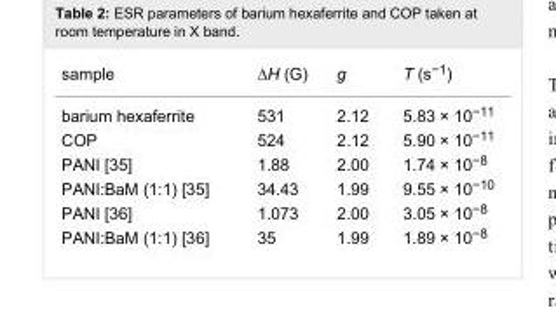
<table><tbody><tr><td>sample</td><td>∆H (G)</td><td>g</td><td>T (s<sup>−1</sup>)</td></tr><tr><td>barium hexaferrite</td><td>531</td><td>2.12</td><td>5.83 × 10<sup>−11</sup></td></tr><tr><td>COP</td><td>524</td><td>2.12</td><td>5.90 × 10<sup>−11</sup></td></tr><tr><td>PANI [35]</td><td>1.88</td><td>2.00</td><td>1.74 × 10<sup>−8</sup></td></tr><tr><td>PANI:BaM (1:1) [35]</td><td>34.43</td><td>1.99</td><td>9.55 × 10<sup>−10</sup></td></tr><tr><td>PANI [36]</td><td>1.073</td><td>2.00</td><td>3.05 × 10<sup>−8</sup></td></tr><tr><td>PANI:BaM (1:1) [36]</td><td>35</td><td>1.99</td><td>1.89 × 10<sup>−8</sup></td></tr></tbody></table>